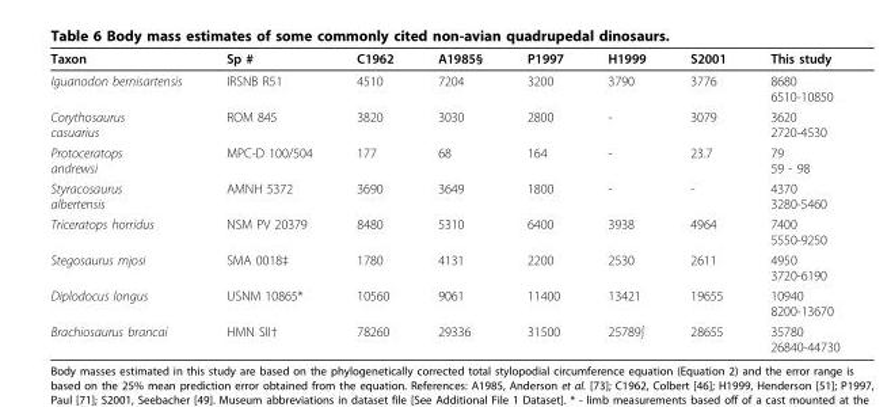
<table><thead><tr><td>Taxon</td><td>Sp #</td><td>C1962</td><td>A1985§</td><td>P1997</td><td>H1999</td><td>S2001</td><td>This study</td></tr></thead><tbody><tr><td>Iguanodon bernisartensis</td><td>IRSNB R51</td><td>4510</td><td>7204</td><td>3200</td><td>3790</td><td>3776</td><td>8680 6510-10850</td></tr><tr><td>Corythosaurus casuarius</td><td>ROM 845</td><td>3820</td><td>3030</td><td>2800</td><td>-</td><td>3079</td><td>3620 2720-4530</td></tr><tr><td>Protoceratops andrewsi</td><td>MPC-D 100/504</td><td>177</td><td>68</td><td>164</td><td>-</td><td>23.7</td><td>79 59 - 98</td></tr><tr><td>Styracosaurus albertensis</td><td>AMNH 5372</td><td>3690</td><td>3649</td><td>1800</td><td>-</td><td>-</td><td>4370 3280-5460</td></tr><tr><td>Triceratops horridus</td><td>NSM PV 20379</td><td>8480</td><td>5310</td><td>6400</td><td>3938</td><td>4964</td><td>7400 5550-9250</td></tr><tr><td>Stegosaurus mjosi</td><td>SMA 0018‡</td><td>1780</td><td>4131</td><td>2200</td><td>2530</td><td>2611</td><td>4950 3720-6190</td></tr><tr><td>Diplodocus longus</td><td>USNM 10865*</td><td>10560</td><td>9061</td><td>11400</td><td>13421</td><td>19655</td><td>10940 8200-13670</td></tr><tr><td>Brachiosaurus brancai</td><td>HMN SII†</td><td>78260</td><td>29336</td><td>31500</td><td>25789∫</td><td>28655</td><td>35780 26840-44730</td></tr></tbody></table>